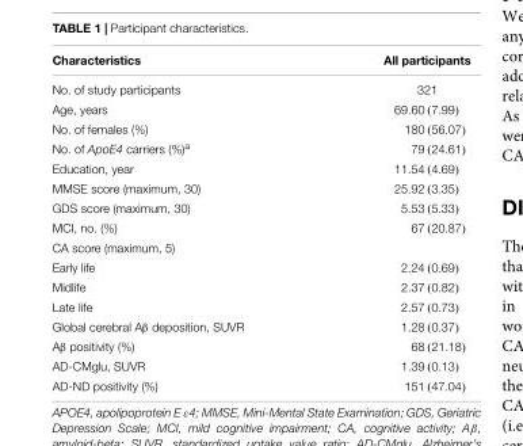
<table><thead><tr><td>Characteristics</td><td>All participants</td></tr></thead><tbody><tr><td>No. of study participants</td><td>321</td></tr><tr><td>Age, years</td><td>69.60 (7.99)</td></tr><tr><td>No. of females (%)</td><td>180 (56.07)</td></tr><tr><td>No. of ApoE4 carriers (%)<sup>a</sup></td><td>79 (24.61)</td></tr><tr><td>Education, year</td><td>11.54 (4.69)</td></tr><tr><td>MMSE score (maximum, 30)</td><td>25.92 (3.35)</td></tr><tr><td>GDS score (maximum, 30)</td><td>5.53 (5.33)</td></tr><tr><td>MCI, no. (%)</td><td>67 (20.87)</td></tr><tr><td colspan="2">CA score (maximum, 5)</td></tr><tr><td>Early life</td><td>2.24 (0.69)</td></tr><tr><td>Midlife</td><td>2.37 (0.82)</td></tr><tr><td>Late life</td><td>2.57 (0.73)</td></tr><tr><td>Global cerebral Aβ deposition, SUVR</td><td>1.28 (0.37)</td></tr><tr><td>Aβ positivity (%)</td><td>68 (21.18)</td></tr><tr><td>AD-CMglu, SUVR</td><td>1.39 (0.13)</td></tr><tr><td>AD-ND positivity (%)</td><td>151 (47.04)</td></tr></tbody></table>